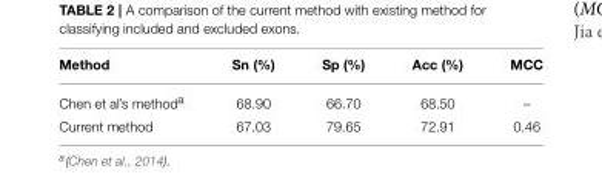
<table><thead><tr><td>Method</td><td>Sn (%)</td><td>Sp (%)</td><td>Acc (%)</td><td>MCC</td></tr></thead><tbody><tr><td>Chen et al’s method<sup>a</sup></td><td>68.90</td><td>66.70</td><td>68.50</td><td>–</td></tr><tr><td>Current method</td><td>67.03</td><td>79.65</td><td>72.91</td><td>0.46</td></tr></tbody></table>